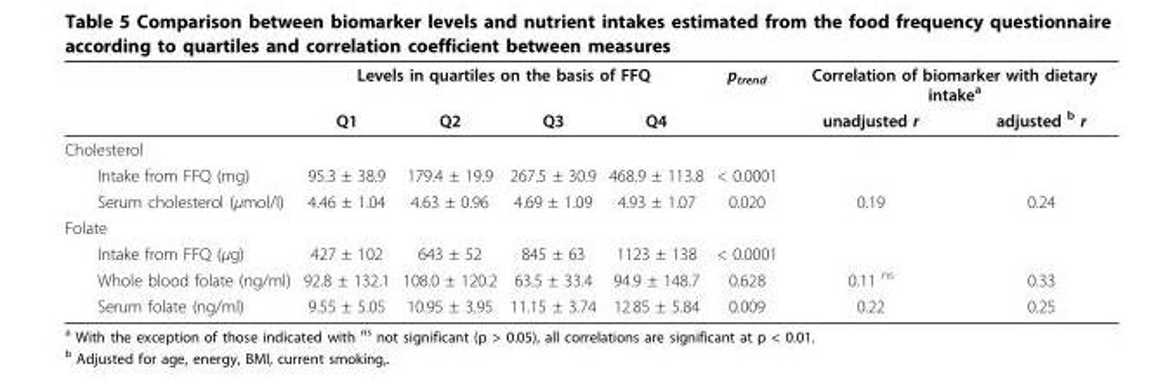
<table><thead><tr><td rowspan="2"></td><td colspan="4">Levels in quartiles on the basis of FFQ</td><td rowspan="2">p<sub>trend</sub></td><td colspan="2">Correlation of biomarker with dietary intake<sup>a</sup></td></tr><tr><td>Q1</td><td>Q2</td><td>Q3</td><td>Q4</td><td>unadjusted r</td><td>adjusted <sup>b</sup> r</td></tr></thead><tbody><tr><td colspan="8">Cholesterol</td></tr><tr><td>Intake from FFQ (mg)</td><td>95.3 ± 38.9</td><td>179.4 ± 19.9</td><td>267.5 ± 30.9</td><td>468.9 ± 113.8</td><td>&lt; 0.0001</td><td></td><td></td></tr><tr><td>Serum cholesterol (μmol/l)</td><td>4.46 ± 1.04</td><td>4.63 ± 0.96</td><td>4.69 ± 1.09</td><td>4.93 ± 1.07</td><td>0.020</td><td>0.19</td><td>0.24</td></tr><tr><td colspan="8">Folate</td></tr><tr><td>Intake from FFQ (μg)</td><td>427 ± 102</td><td>643 ± 52</td><td>845 ± 63</td><td>1123 ± 138</td><td>&lt; 0.0001</td><td></td><td></td></tr><tr><td>Whole blood folate (ng/ml)</td><td>92.8 ± 132.1</td><td>108.0 ± 120.2</td><td>63.5 ± 33.4</td><td>94.9 ± 148.7</td><td>0.628</td><td>0.11 <sup>ns</sup></td><td>0.33</td></tr><tr><td>Serum folate (ng/ml)</td><td>9.55 ± 5.05</td><td>10.95 ± 3.95</td><td>11.15 ± 3.74</td><td>12.85 ± 5.84</td><td>0.009</td><td>0.22</td><td>0.25</td></tr></tbody></table>